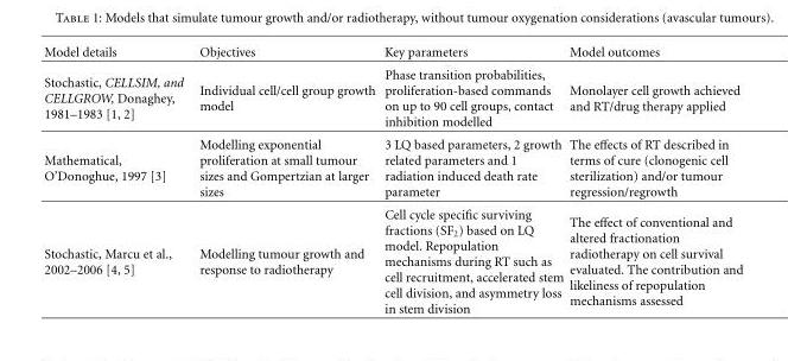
<table><thead><tr><td>Model details</td><td>Objectives</td><td>Key parameters</td><td>Model outcomes</td></tr></thead><tbody><tr><td>Stochastic, CELLSIM, and CELLGROW, Donaghey, 1981–1983 [1, 2]</td><td>Individual cell/cell group growth model</td><td>Phase transition probabilities, proliferation-based commands on up to 90 cell groups, contact inhibition modelled</td><td>Monolayer cell growth achieved and RT/drug therapy applied</td></tr><tr><td>Mathematical, O’Donoghue, 1997 [3]</td><td>Modelling exponential proliferation at small tumour sizes and Gompertzian at larger sizes</td><td>3 LQ based parameters, 2 growth related parameters and 1 radiation induced death rate parameter</td><td>The effects of RT described in terms of cure (clonogenic cell sterilization) and/or tumour regression/regrowth</td></tr><tr><td>Stochastic, Marcu et al., 2002–2006 [4, 5]</td><td>Modelling tumour growth and response to radiotherapy</td><td>Cell cycle specific surviving fractions (SF<sub>2</sub>) based on LQ model. Repopulation mechanisms during RT such as cell recruitment, accelerated stem cell division, and asymmetry loss in stem division</td><td>The effect of conventional and altered fractionation radiotherapy on cell survival evaluated. The contribution and likeliness of repopulation mechanisms assessed</td></tr></tbody></table>